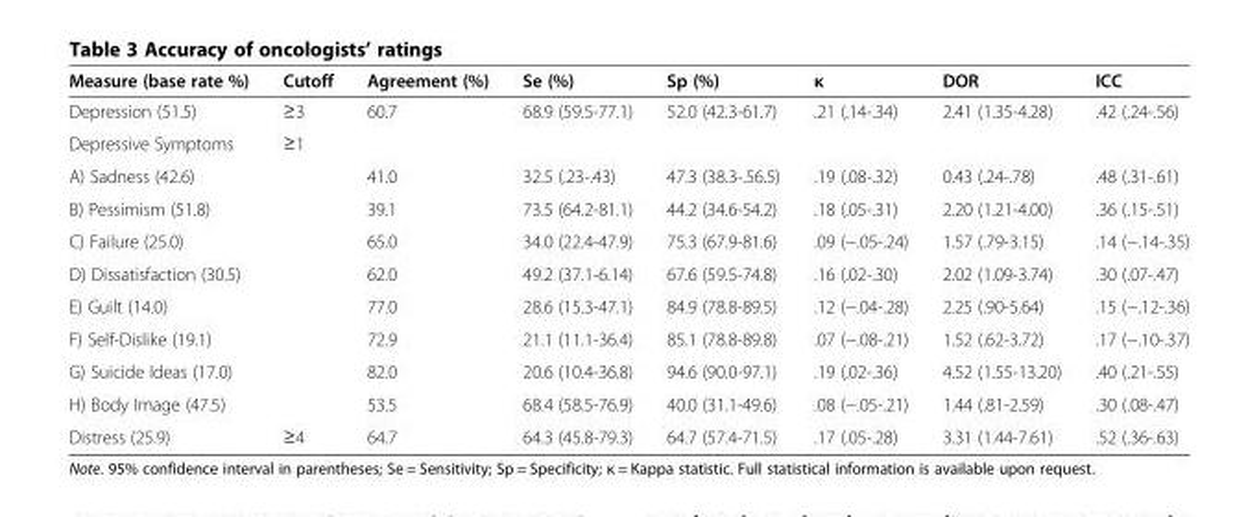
<table><thead><tr><td>Measure (base rate %)</td><td>Cutoff</td><td>Agreement (%)</td><td>Se (%)</td><td>Sp (%)</td><td>κ</td><td>DOR</td><td>ICC</td></tr></thead><tbody><tr><td>Depression (51.5)</td><td>≥3</td><td>60.7</td><td>68.9 (59.5-77.1)</td><td>52.0 (42.3-61.7)</td><td>.21 (.14-.34)</td><td>2.41 (1.35-4.28)</td><td>.42 (.24-.56)</td></tr><tr><td>Depressive Symptoms</td><td>≥1</td><td></td><td></td><td></td><td></td><td></td><td></td></tr><tr><td>A) Sadness (42.6)</td><td></td><td>41.0</td><td>32.5 (.23-.43)</td><td>47.3 (38.3-.56.5)</td><td>.19 (.08-.32)</td><td>0.43 (.24-.78)</td><td>.48 (.31-.61)</td></tr><tr><td>B) Pessimism (51.8)</td><td></td><td>39.1</td><td>73.5 (64.2-81.1)</td><td>44.2 (34.6-54.2)</td><td>.18 (.05-.31)</td><td>2.20 (1.21-4.00)</td><td>.36 (.15-.51)</td></tr><tr><td>C) Failure (25.0)</td><td></td><td>65.0</td><td>34.0 (22.4-47.9)</td><td>75.3 (67.9-81.6)</td><td>.09 (−.05-.24)</td><td>1.57 (.79-3.15)</td><td>.14 (−.14-.35)</td></tr><tr><td>D) Dissatisfaction (30.5)</td><td></td><td>62.0</td><td>49.2 (37.1-6.14)</td><td>67.6 (59.5-74.8)</td><td>.16 (.02-.30)</td><td>2.02 (1.09-3.74)</td><td>.30 (.07-.47)</td></tr><tr><td>E) Guilt (14.0)</td><td></td><td>77.0</td><td>28.6 (15.3-47.1)</td><td>84.9 (78.8-89.5)</td><td>.12 (−.04-.28)</td><td>2.25 (.90-5.64)</td><td>.15 (−.12-.36)</td></tr><tr><td>F) Self-Dislike (19.1)</td><td></td><td>72.9</td><td>21.1 (11.1-36.4)</td><td>85.1 (78.8-89.8)</td><td>.07 (−.08-.21)</td><td>1.52 (.62-3.72)</td><td>.17 (−.10-.37)</td></tr><tr><td>G) Suicide Ideas (17.0)</td><td></td><td>82.0</td><td>20.6 (10.4-36.8)</td><td>94.6 (90.0-97.1)</td><td>.19 (.02-.36)</td><td>4.52 (1.55-13.20)</td><td>.40 (.21-.55)</td></tr><tr><td>H) Body Image (47.5)</td><td></td><td>53.5</td><td>68.4 (58.5-76.9)</td><td>40.0 (31.1-49.6)</td><td>.08 (−.05-.21)</td><td>1.44 (.81-2.59)</td><td>.30 (.08-.47)</td></tr><tr><td>Distress (25.9)</td><td>≥4</td><td>64.7</td><td>64.3 (45.8-79.3)</td><td>64.7 (57.4-71.5)</td><td>.17 (.05-.28)</td><td>3.31 (1.44-7.61)</td><td>.52 (.36-.63)</td></tr></tbody></table>